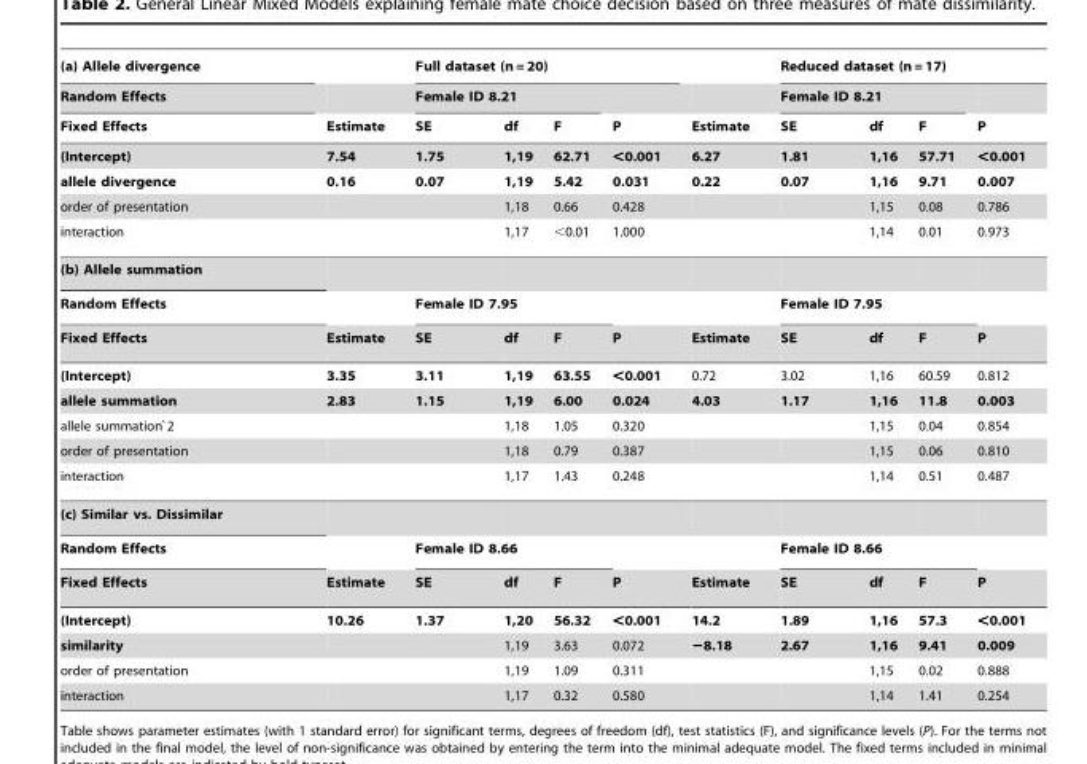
<table><thead><tr><td rowspan="3">(a) Allele divergence Random Effects Fixed Effects</td><td rowspan="3">Estimate</td><td colspan="4">Full dataset (n = 20)</td><td rowspan="3">Estimate</td><td colspan="4">Reduced dataset (n = 17)</td></tr><tr><td colspan="3">Female ID 8.21</td><td rowspan="2">P</td><td colspan="3">Female ID 8.21</td><td rowspan="2">P</td></tr><tr><td>SE</td><td>df</td><td>F</td><td>SE</td><td>df</td><td>F</td></tr></thead><tbody><tr><td>(Intercept)</td><td>7.54</td><td>1.75</td><td>1,19</td><td>62.71</td><td>&lt;0.001</td><td>6.27</td><td>1.81</td><td>1,16</td><td>57.71</td><td>&lt;0.001</td></tr><tr><td>allele divergence</td><td>0.16</td><td>0.07</td><td>1,19</td><td>5.42</td><td>0.031</td><td>0.22</td><td>0.07</td><td>1,16</td><td>9.71</td><td>0.007</td></tr><tr><td>order of presentation</td><td></td><td></td><td>1,18</td><td>0.66</td><td>0.428</td><td></td><td></td><td>1,15</td><td>0.08</td><td>0.786</td></tr><tr><td>interaction</td><td></td><td></td><td>1,17</td><td>&lt;0.01</td><td>1.000</td><td></td><td></td><td>1,14</td><td>0.01</td><td>0.973</td></tr><tr><td colspan="11">(b) Allele summation</td></tr><tr><td>Random Effects</td><td></td><td colspan="3">Female ID 7.95</td><td></td><td></td><td colspan="3">Female ID 7.95</td><td></td></tr><tr><td>Fixed Effects</td><td>Estimate</td><td>SE</td><td>df</td><td>F</td><td>P</td><td>Estimate</td><td>SE</td><td>df</td><td>F</td><td>P</td></tr><tr><td>(Intercept)</td><td>3.35</td><td>3.11</td><td>1,19</td><td>63.55</td><td>&lt;0.001</td><td>0.72</td><td>3.02</td><td>1,16</td><td>60.59</td><td>0.812</td></tr><tr><td>allele summation</td><td>2.83</td><td>1.15</td><td>1,19</td><td>6.00</td><td>0.024</td><td>4.03</td><td>1.17</td><td>1,16</td><td>11.8</td><td>0.003</td></tr><tr><td>allele summationˆ2</td><td></td><td></td><td>1,18</td><td>1.05</td><td>0.320</td><td></td><td></td><td>1,15</td><td>0.04</td><td>0.854</td></tr><tr><td>order of presentation</td><td></td><td></td><td>1,18</td><td>0.79</td><td>0.387</td><td></td><td></td><td>1,15</td><td>0.06</td><td>0.810</td></tr><tr><td>interaction</td><td></td><td></td><td>1,17</td><td>1.43</td><td>0.248</td><td></td><td></td><td>1,14</td><td>0.51</td><td>0.487</td></tr><tr><td colspan="11">(c) Similar vs. Dissimilar</td></tr><tr><td>Random Effects</td><td></td><td colspan="3">Female ID 8.66</td><td></td><td></td><td colspan="3">Female ID 8.66</td><td></td></tr><tr><td>Fixed Effects</td><td>Estimate</td><td>SE</td><td>df</td><td>F</td><td>P</td><td>Estimate</td><td>SE</td><td>df</td><td>F</td><td>P</td></tr><tr><td>(Intercept)</td><td>10.26</td><td>1.37</td><td>1,20</td><td>56.32</td><td>&lt;0.001</td><td>14.2</td><td>1.89</td><td>1,16</td><td>57.3</td><td>&lt;0.001</td></tr><tr><td>similarity</td><td></td><td></td><td>1,19</td><td>3.63</td><td>0.072</td><td>−8.18</td><td>2.67</td><td>1,16</td><td>9.41</td><td>0.009</td></tr><tr><td>order of presentation</td><td></td><td></td><td>1,19</td><td>1.09</td><td>0.311</td><td></td><td></td><td>1,15</td><td>0.02</td><td>0.888</td></tr><tr><td>interaction</td><td></td><td></td><td>1,17</td><td>0.32</td><td>0.580</td><td></td><td></td><td>1,14</td><td>1.41</td><td>0.254</td></tr></tbody></table>